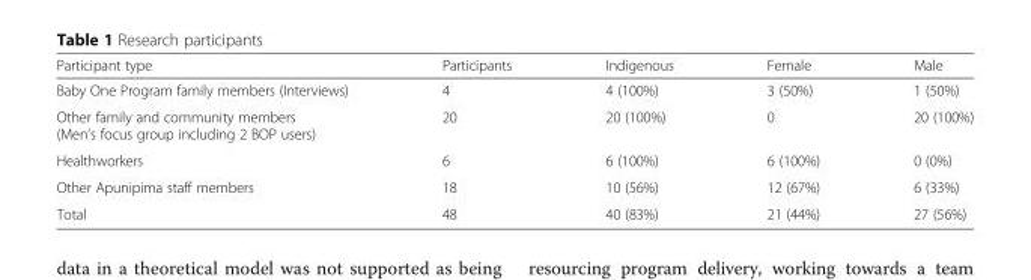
<table><thead><tr><td>Participant type</td><td>Participants</td><td>Indigenous</td><td>Female</td><td>Male</td></tr></thead><tbody><tr><td>Baby One Program family members (Interviews)</td><td>4</td><td>4 (100%)</td><td>3 (50%)</td><td>1 (50%)</td></tr><tr><td>Other family and community members (Men’s focus group including 2 BOP users)</td><td>20</td><td>20 (100%)</td><td>0</td><td>20 (100%)</td></tr><tr><td>Healthworkers</td><td>6</td><td>6 (100%)</td><td>6 (100%)</td><td>0 (0%)</td></tr><tr><td>Other Apunipima staff members</td><td>18</td><td>10 (56%)</td><td>12 (67%)</td><td>6 (33%)</td></tr><tr><td>Total</td><td>48</td><td>40 (83%)</td><td>21 (44%)</td><td>27 (56%)</td></tr></tbody></table>